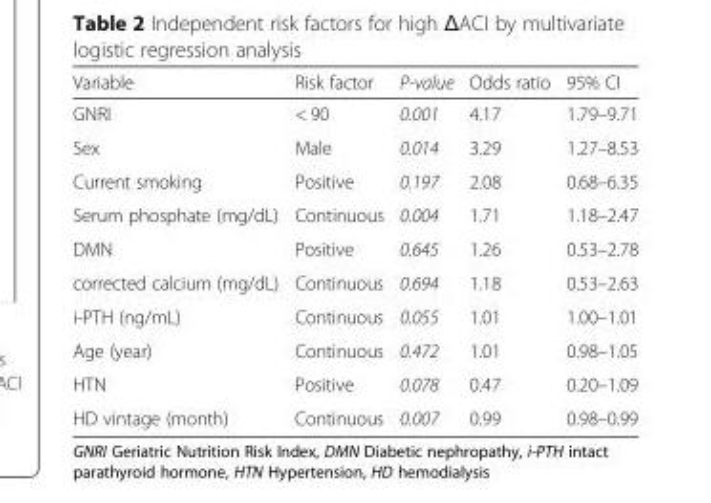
<table><thead><tr><td>Variable</td><td>Risk factor</td><td>P-value</td><td>Odds ratio</td><td>95% CI</td></tr></thead><tbody><tr><td>GNRI</td><td>&lt; 90</td><td>0.001</td><td>4.17</td><td>1.79–9.71</td></tr><tr><td>Sex</td><td>Male</td><td>0.014</td><td>3.29</td><td>1.27–8.53</td></tr><tr><td>Current smoking</td><td>Positive</td><td>0.197</td><td>2.08</td><td>0.68–6.35</td></tr><tr><td>Serum phosphate (mg/dL)</td><td>Continuous</td><td>0.004</td><td>1.71</td><td>1.18–2.47</td></tr><tr><td>DMN</td><td>Positive</td><td>0.645</td><td>1.26</td><td>0.53–2.78</td></tr><tr><td>corrected calcium (mg/dL)</td><td>Continuous</td><td>0.694</td><td>1.18</td><td>0.53–2.63</td></tr><tr><td>i-PTH (ng/mL)</td><td>Continuous</td><td>0.055</td><td>1.01</td><td>1.00–1.01</td></tr><tr><td>Age (year)</td><td>Continuous</td><td>0.472</td><td>1.01</td><td>0.98–1.05</td></tr><tr><td>HTN</td><td>Positive</td><td>0.078</td><td>0.47</td><td>0.20–1.09</td></tr><tr><td>HD vintage (month)</td><td>Continuous</td><td>0.007</td><td>0.99</td><td>0.98–0.99</td></tr></tbody></table>